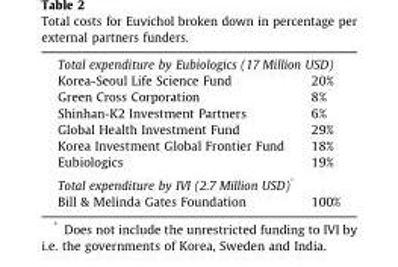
<table><tbody><tr><td colspan="2">Total expenditure by Eubiologics (17 Million USD)</td></tr><tr><td>Korea-Seoul Life Science Fund</td><td>20%</td></tr><tr><td>Green Cross Corporation</td><td>8%</td></tr><tr><td>Shinhan-K2 Investment Partners</td><td>6%</td></tr><tr><td>Global Health Investment Fund</td><td>29%</td></tr><tr><td>Korea Investment Global Frontier Fund</td><td>18%</td></tr><tr><td>Eubiologics</td><td>19%</td></tr><tr><td colspan="2">Total expenditure by IVI (2.7 Million USD)*</td></tr><tr><td>Bill &amp; Melinda Gates Foundation</td><td>100%</td></tr></tbody></table>